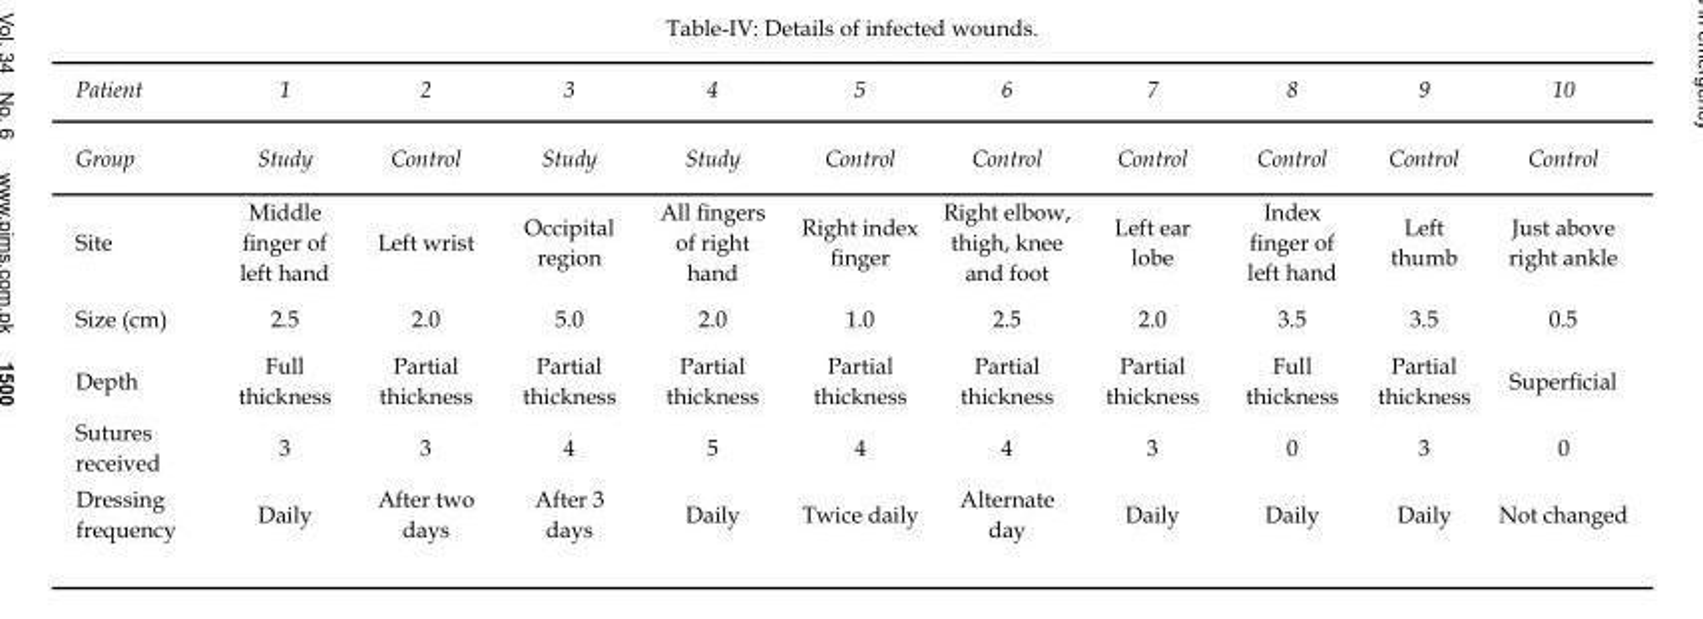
<table><thead><tr><td rowspan="2">Patient Group</td><td rowspan="2">1 Study</td><td rowspan="2">2 Control</td><td rowspan="2">3 Study</td><td rowspan="2">4 Study</td><td rowspan="2">5 Control</td><td rowspan="2">6 Control</td><td rowspan="2">7 Control</td><td rowspan="2">8 Control</td><td rowspan="2">9 Control</td><td rowspan="2">10 Control</td></tr><tr></tr></thead><tbody><tr><td>Site</td><td>Middle finger of left hand</td><td>Left wrist</td><td>Occipital region</td><td>All fingers of right hand</td><td>Right index finger</td><td>Right elbow, thigh, knee and foot</td><td>Left ear lobe</td><td>Index finger of left hand</td><td>Left thumb</td><td>Just above right ankle</td></tr><tr><td>Size (cm)</td><td>2.5</td><td>2.0</td><td>5.0</td><td>2.0</td><td>1.0</td><td>2.5</td><td>2.0</td><td>3.5</td><td>3.5</td><td>0.5</td></tr><tr><td>Depth</td><td>Full thickness</td><td>Partial thickness</td><td>Partial thickness</td><td>Partial thickness</td><td>Partial thickness</td><td>Partial thickness</td><td>Partial thickness</td><td>Full thickness</td><td>Partial thickness</td><td>Superficial</td></tr><tr><td>Sutures received</td><td>3</td><td>3</td><td>4</td><td>5</td><td>4</td><td>4</td><td>3</td><td>0</td><td>3</td><td>0</td></tr><tr><td>Dressing frequency</td><td>Daily</td><td>After two days</td><td>After 3 days</td><td>Daily</td><td>Twice daily</td><td>Alternate day</td><td>Daily</td><td>Daily</td><td>Daily</td><td>Not changed</td></tr></tbody></table>